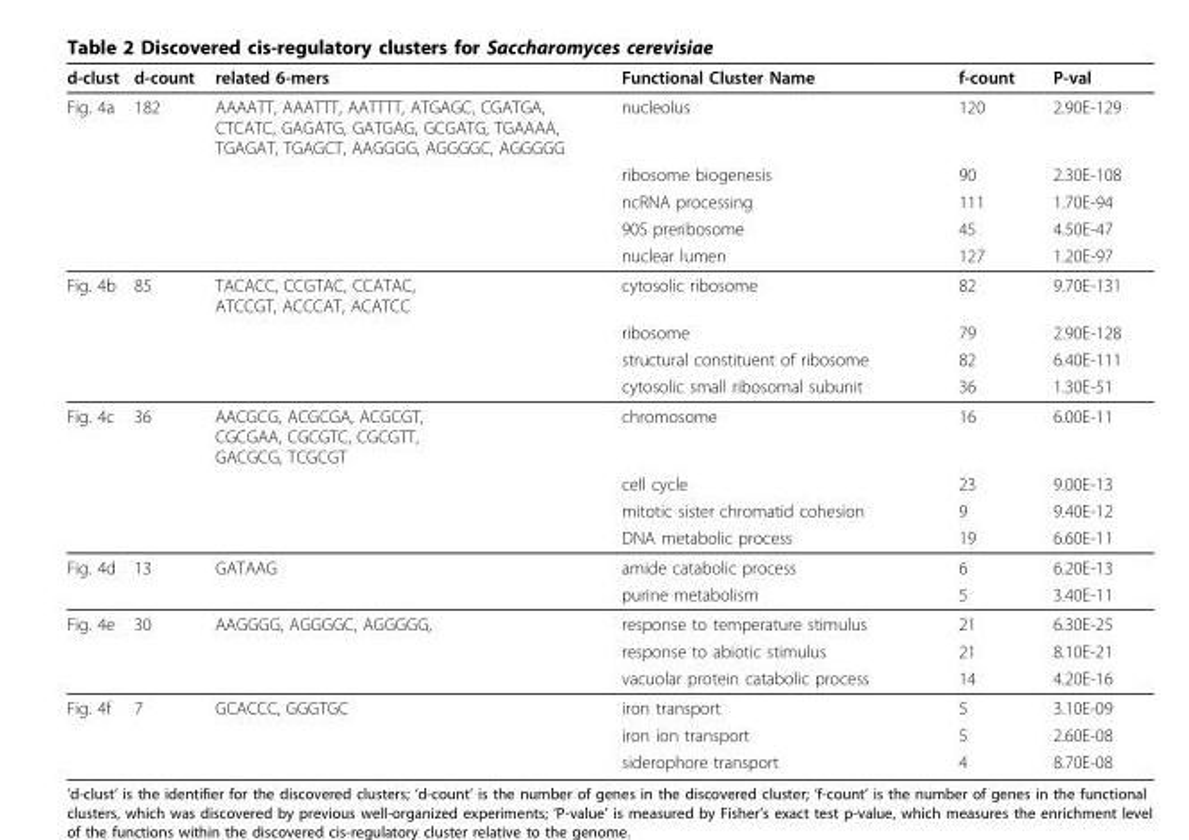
<table><thead><tr><td>d-clust</td><td>d-count</td><td>related 6-mers</td><td>Functional Cluster Name</td><td>f-count</td><td>P-val</td></tr></thead><tbody><tr><td rowspan="5">Fig. 4a</td><td>182</td><td>AAAATT, AAATTT, AATTTT, ATGAGC, CGATGA, CTCATC, GAGATG, GATGAG, GCGATG, TGAAAA, TGAGAT, TGAGCT, AAGGGG, AGGGGC, AGGGGG</td><td>nucleolus</td><td>120</td><td>2.90E-129</td></tr><tr><td></td><td></td><td>ribosome biogenesis</td><td>90</td><td>2.30E-108</td></tr><tr><td></td><td></td><td>ncRNA processing</td><td>111</td><td>1.70E-94</td></tr><tr><td></td><td></td><td>90S preribosome</td><td>45</td><td>4.50E-47</td></tr><tr><td></td><td></td><td>nuclear lumen</td><td>127</td><td>1.20E-97</td></tr><tr><td rowspan="4">Fig. 4b</td><td>85</td><td>TACACC, CCGTAC, CCATAC, ATCCGT, ACCCAT, ACATCC</td><td>cytosolic ribosome</td><td>82</td><td>9.70E-131</td></tr><tr><td></td><td></td><td>ribosome</td><td>79</td><td>2.90E-128</td></tr><tr><td></td><td></td><td>structural constituent of ribosome</td><td>82</td><td>6.40E-111</td></tr><tr><td></td><td></td><td>cytosolic small ribosomal subunit</td><td>36</td><td>1.30E-51</td></tr><tr><td rowspan="4">Fig. 4c</td><td>36</td><td>AACGCG, ACGCGA, ACGCGT, CGCGAA, CGCGTC, CGCGTT, GACGCG, TCGCGT</td><td>chromosome</td><td>16</td><td>6.00E-11</td></tr><tr><td></td><td></td><td>cell cycle</td><td>23</td><td>9.00E-13</td></tr><tr><td></td><td></td><td>mitotic sister chromatid cohesion</td><td>9</td><td>9.40E-12</td></tr><tr><td></td><td></td><td>DNA metabolic process</td><td>19</td><td>6.60E-11</td></tr><tr><td rowspan="2">Fig. 4d</td><td>13</td><td>GATAAG</td><td>amide catabolic process</td><td>6</td><td>6.20E-13</td></tr><tr><td></td><td></td><td>purine metabolism</td><td>5</td><td>3.40E-11</td></tr><tr><td rowspan="3">Fig. 4e</td><td>30</td><td>AAGGGG, AGGGGC, AGGGGG,</td><td>response to temperature stimulus</td><td>21</td><td>6.30E-25</td></tr><tr><td></td><td></td><td>response to abiotic stimulus</td><td>21</td><td>8.10E-21</td></tr><tr><td></td><td></td><td>vacuolar protein catabolic process</td><td>14</td><td>4.20E-16</td></tr><tr><td rowspan="3">Fig. 4f</td><td>7</td><td>GCACCC, GGGTGC</td><td>iron transport</td><td>5</td><td>3.10E-09</td></tr><tr><td></td><td></td><td>iron ion transport</td><td>5</td><td>2.60E-08</td></tr><tr><td></td><td></td><td>siderophore transport</td><td>4</td><td>8.70E-08</td></tr></tbody></table>